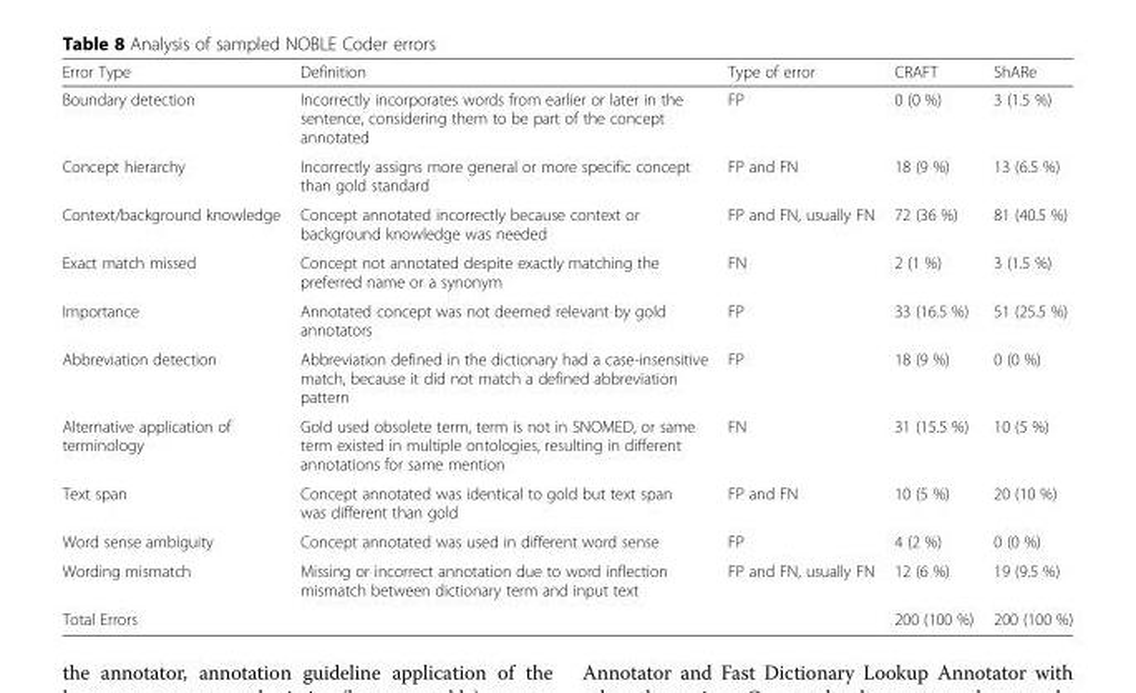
<table><thead><tr><td>Error Type</td><td>Definition</td><td>Type of error</td><td>CRAFT</td><td>ShARe</td></tr></thead><tbody><tr><td>Boundary detection</td><td>Incorrectly incorporates words from earlier or later in the sentence, considering them to be part of the concept annotated</td><td>FP</td><td>0 (0 %)</td><td>3 (1.5 %)</td></tr><tr><td>Concept hierarchy</td><td>Incorrectly assigns more general or more specific concept than gold standard</td><td>FP and FN</td><td>18 (9 %)</td><td>13 (6.5 %)</td></tr><tr><td>Context/background knowledge</td><td>Concept annotated incorrectly because context or background knowledge was needed</td><td>FP and FN, usually FN</td><td>72 (36 %)</td><td>81 (40.5 %)</td></tr><tr><td>Exact match missed</td><td>Concept not annotated despite exactly matching the preferred name or a synonym</td><td>FN</td><td>2 (1 %)</td><td>3 (1.5 %)</td></tr><tr><td>Importance</td><td>Annotated concept was not deemed relevant by gold annotators</td><td>FP</td><td>33 (16.5 %)</td><td>51 (25.5 %)</td></tr><tr><td>Abbreviation detection</td><td>Abbreviation defined in the dictionary had a case-insensitive match, because it did not match a defined abbreviation pattern</td><td>FP</td><td>18 (9 %)</td><td>0 (0 %)</td></tr><tr><td>Alternative application of terminology</td><td>Gold used obsolete term, term is not in SNOMED, or same term existed in multiple ontologies, resulting in different annotations for same mention</td><td>FN</td><td>31 (15.5 %)</td><td>10 (5 %)</td></tr><tr><td>Text span</td><td>Concept annotated was identical to gold but text span was different than gold</td><td>FP and FN</td><td>10 (5 %)</td><td>20 (10 %)</td></tr><tr><td>Word sense ambiguity</td><td>Concept annotated was used in different word sense</td><td>FP</td><td>4 (2 %)</td><td>0 (0 %)</td></tr><tr><td>Wording mismatch</td><td>Missing or incorrect annotation due to word inflection mismatch between dictionary term and input text</td><td>FP and FN, usually FN</td><td>12 (6 %)</td><td>19 (9.5 %)</td></tr><tr><td>Total Errors</td><td></td><td></td><td>200 (100 %)</td><td>200 (100 %)</td></tr></tbody></table>